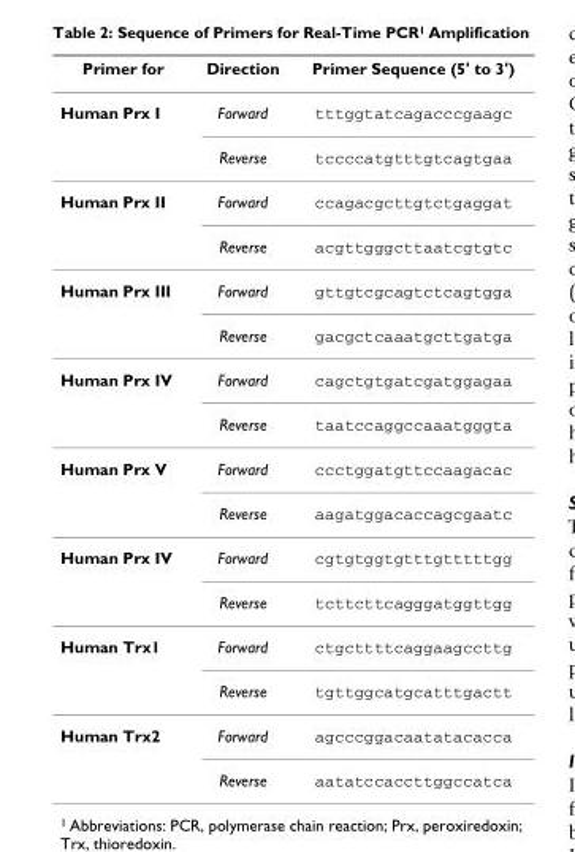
<table><thead><tr><td>Primer for</td><td>Direction</td><td>Primer Sequence (5&#x27; to 3&#x27;)</td></tr></thead><tbody><tr><td rowspan="2">Human Prx I</td><td>Forward</td><td>tttggtatcagacccgaagc</td></tr><tr><td>Reverse</td><td>tccccatgtttgtcagtgaa</td></tr><tr><td rowspan="2">Human Prx II</td><td>Forward</td><td>ccagacgcttgtctgaggat</td></tr><tr><td>Reverse</td><td>acgttgggcttaatcgtgtc</td></tr><tr><td rowspan="2">Human Prx III</td><td>Forward</td><td>gttgtcgcagtctcagtgga</td></tr><tr><td>Reverse</td><td>gacgctcaaatgcttgatga</td></tr><tr><td rowspan="2">Human Prx IV</td><td>Forward</td><td>cagctgtgatcgatggagaa</td></tr><tr><td>Reverse</td><td>taatccaggccaaatgggta</td></tr><tr><td rowspan="2">Human Prx V</td><td>Forward</td><td>ccctggatgttccaagacac</td></tr><tr><td>Reverse</td><td>aagatggacaccagcgaatc</td></tr><tr><td rowspan="2">Human Prx IV</td><td>Forward</td><td>cgtgtggtgtttgtttttgg</td></tr><tr><td>Reverse</td><td>tcttcttcagggatggttgg</td></tr><tr><td rowspan="2">Human Trx1</td><td>Forward</td><td>ctgcttttcaggaagccttg</td></tr><tr><td>Reverse</td><td>tgttggcatgcatttgactt</td></tr><tr><td rowspan="2">Human Trx2</td><td>Forward</td><td>agcccggacaatatacacca</td></tr><tr><td>Reverse</td><td>aatatccaccttggccatca</td></tr></tbody></table>